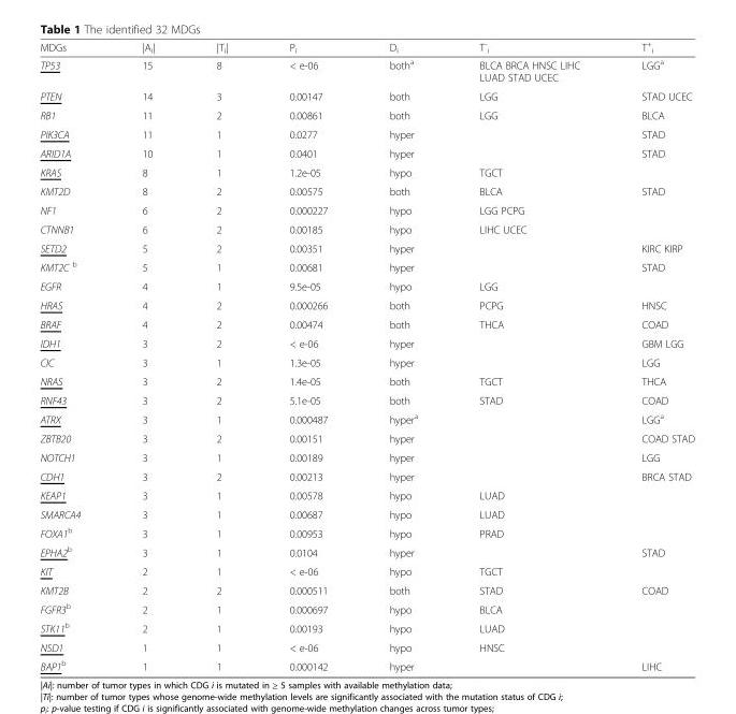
<table><thead><tr><td>MDGs</td><td>|A<sub>i</sub>|</td><td>|T<sub>i</sub>|</td><td>P<sub>i</sub></td><td>D<sub>i</sub></td><td>T<sup>-</sup> <sub>i</sub></td><td>T<sup>+</sup> <sub>i</sub></td></tr></thead><tbody><tr><td>TP53</td><td>15</td><td>8</td><td>&lt; e-06</td><td>both<sup>a</sup></td><td>BLCA BRCA HNSC LIHC LUAD STAD UCEC</td><td>LGG<sup>a</sup></td></tr><tr><td>PTEN</td><td>14</td><td>3</td><td>0.00147</td><td>both</td><td>LGG</td><td>STAD UCEC</td></tr><tr><td>RB1</td><td>11</td><td>2</td><td>0.00861</td><td>both</td><td>LGG</td><td>BLCA</td></tr><tr><td>PIK3CA</td><td>11</td><td>1</td><td>0.0277</td><td>hyper</td><td></td><td>STAD</td></tr><tr><td>ARID1A</td><td>10</td><td>1</td><td>0.0401</td><td>hyper</td><td></td><td>STAD</td></tr><tr><td>KRAS</td><td>8</td><td>1</td><td>1.2e-05</td><td>hypo</td><td>TGCT</td><td></td></tr><tr><td>KMT2D</td><td>8</td><td>2</td><td>0.00575</td><td>both</td><td>BLCA</td><td>STAD</td></tr><tr><td>NF1</td><td>6</td><td>2</td><td>0.000227</td><td>hypo</td><td>LGG PCPG</td><td></td></tr><tr><td>CTNNB1</td><td>6</td><td>2</td><td>0.00185</td><td>hypo</td><td>LIHC UCEC</td><td></td></tr><tr><td>SETD2</td><td>5</td><td>2</td><td>0.00351</td><td>hyper</td><td></td><td>KIRC KIRP</td></tr><tr><td>KMT2C <sup>b</sup></td><td>5</td><td>1</td><td>0.00681</td><td>hyper</td><td></td><td>STAD</td></tr><tr><td>EGFR</td><td>4</td><td>1</td><td>9.5e-05</td><td>hypo</td><td>LGG</td><td></td></tr><tr><td>HRAS</td><td>4</td><td>2</td><td>0.000266</td><td>both</td><td>PCPG</td><td>HNSC</td></tr><tr><td>BRAF</td><td>4</td><td>2</td><td>0.00474</td><td>both</td><td>THCA</td><td>COAD</td></tr><tr><td>IDH1</td><td>3</td><td>2</td><td>&lt; e-06</td><td>hyper</td><td></td><td>GBM LGG</td></tr><tr><td>CIC</td><td>3</td><td>1</td><td>1.3e-05</td><td>hyper</td><td></td><td>LGG</td></tr><tr><td>NRAS</td><td>3</td><td>2</td><td>1.4e-05</td><td>both</td><td>TGCT</td><td>THCA</td></tr><tr><td>RNF43</td><td>3</td><td>2</td><td>5.1e-05</td><td>both</td><td>STAD</td><td>COAD</td></tr><tr><td>ATRX</td><td>3</td><td>1</td><td>0.000487</td><td>hyper<sup>a</sup></td><td></td><td>LGG<sup>a</sup></td></tr><tr><td>ZBTB20</td><td>3</td><td>2</td><td>0.00151</td><td>hyper</td><td></td><td>COAD STAD</td></tr><tr><td>NOTCH1</td><td>3</td><td>1</td><td>0.00189</td><td>hyper</td><td></td><td>LGG</td></tr><tr><td>CDH1</td><td>3</td><td>2</td><td>0.00213</td><td>hyper</td><td></td><td>BRCA STAD</td></tr><tr><td>KEAP1</td><td>3</td><td>1</td><td>0.00578</td><td>hypo</td><td>LUAD</td><td></td></tr><tr><td>SMARCA4</td><td>3</td><td>1</td><td>0.00687</td><td>hypo</td><td>LUAD</td><td></td></tr><tr><td>FOXA1<sup>b</sup></td><td>3</td><td>1</td><td>0.00953</td><td>hypo</td><td>PRAD</td><td></td></tr><tr><td>EPHA2<sup>b</sup></td><td>3</td><td>1</td><td>0.0104</td><td>hyper</td><td></td><td>STAD</td></tr><tr><td>KIT</td><td>2</td><td>1</td><td>&lt; e-06</td><td>hypo</td><td>TGCT</td><td></td></tr><tr><td>KMT2B</td><td>2</td><td>2</td><td>0.000511</td><td>both</td><td>STAD</td><td>COAD</td></tr><tr><td>FGFR3<sup>b</sup></td><td>2</td><td>1</td><td>0.000697</td><td>hypo</td><td>BLCA</td><td></td></tr><tr><td>STK11<sup>b</sup></td><td>2</td><td>1</td><td>0.00193</td><td>hypo</td><td>LUAD</td><td></td></tr><tr><td>NSD1</td><td>1</td><td>1</td><td>&lt; e-06</td><td>hypo</td><td>HNSC</td><td></td></tr><tr><td>BAP1<sup>b</sup></td><td>1</td><td>1</td><td>0.000142</td><td>hyper</td><td></td><td>LIHC</td></tr></tbody></table>